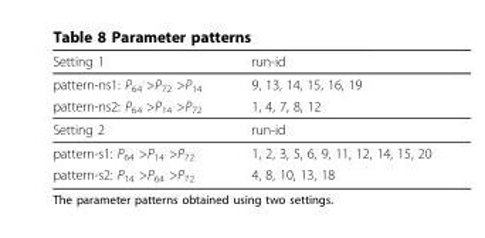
<table><thead><tr><td>Setting 1</td><td>run-id</td></tr></thead><tbody><tr><td>pattern-ns1: P<sub>64</sub> &gt;P<sub>72</sub> &gt;P<sub>14</sub></td><td>9, 13, 14, 15, 16, 19</td></tr><tr><td>pattern-ns2: P<sub>64</sub> &gt;P<sub>14</sub> &gt;P<sub>72</sub></td><td>1, 4, 7, 8, 12</td></tr><tr><td>Setting 2</td><td>run-id</td></tr><tr><td>pattern-s1: P<sub>64</sub> &gt;P<sub>14</sub> &gt;P<sub>72</sub></td><td>1, 2, 3, 5, 6, 9, 11, 12, 14, 15, 20</td></tr><tr><td>pattern-s2: P<sub>14</sub> &gt;P<sub>64</sub> &gt;P<sub>72</sub></td><td>4, 8, 10, 13, 18</td></tr></tbody></table>